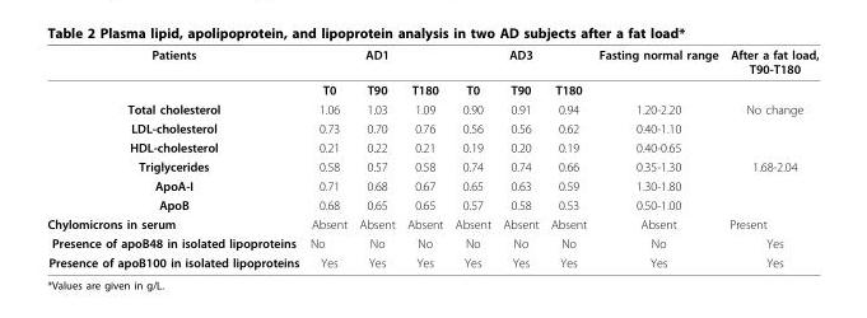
<table><thead><tr><td rowspan="2">Patients</td><td colspan="3">AD1</td><td colspan="3">AD3</td><td rowspan="2">Fasting normal range</td><td rowspan="2">After a fat load, T90-T180</td></tr><tr><td>T0</td><td>T90</td><td>T180</td><td>T0</td><td>T90</td><td>T180</td></tr></thead><tbody><tr><td>Total cholesterol</td><td>1.06</td><td>1.03</td><td>1.09</td><td>0.90</td><td>0.91</td><td>0.94</td><td>1.20-2.20</td><td>No change</td></tr><tr><td>LDL-cholesterol</td><td>0.73</td><td>0.70</td><td>0.76</td><td>0.56</td><td>0.56</td><td>0.62</td><td>0.40-1.10</td><td></td></tr><tr><td>HDL-cholesterol</td><td>0.21</td><td>0.22</td><td>0.21</td><td>0.19</td><td>0.20</td><td>0.19</td><td>0.40-0.65</td><td></td></tr><tr><td>Triglycerides</td><td>0.58</td><td>0.57</td><td>0.58</td><td>0.74</td><td>0.74</td><td>0.66</td><td>0.35-1.30</td><td>1.68-2.04</td></tr><tr><td>ApoA-I</td><td>0.71</td><td>0.68</td><td>0.67</td><td>0.65</td><td>0.63</td><td>0.59</td><td>1.30-1.80</td><td></td></tr><tr><td>ApoB</td><td>0.68</td><td>0.65</td><td>0.65</td><td>0.57</td><td>0.58</td><td>0.53</td><td>0.50-1.00</td><td></td></tr><tr><td>Chylomicrons in serum</td><td>Absent</td><td>Absent</td><td>Absent</td><td>Absent</td><td>Absent</td><td>Absent</td><td>Absent</td><td>Present</td></tr><tr><td>Presence of apoB48 in isolated lipoproteins</td><td>No</td><td>No</td><td>No</td><td>No</td><td>No</td><td>No</td><td>No</td><td>Yes</td></tr><tr><td>Presence of apoB100 in isolated lipoproteins</td><td>Yes</td><td>Yes</td><td>Yes</td><td>Yes</td><td>Yes</td><td>Yes</td><td>Yes</td><td>Yes</td></tr></tbody></table>